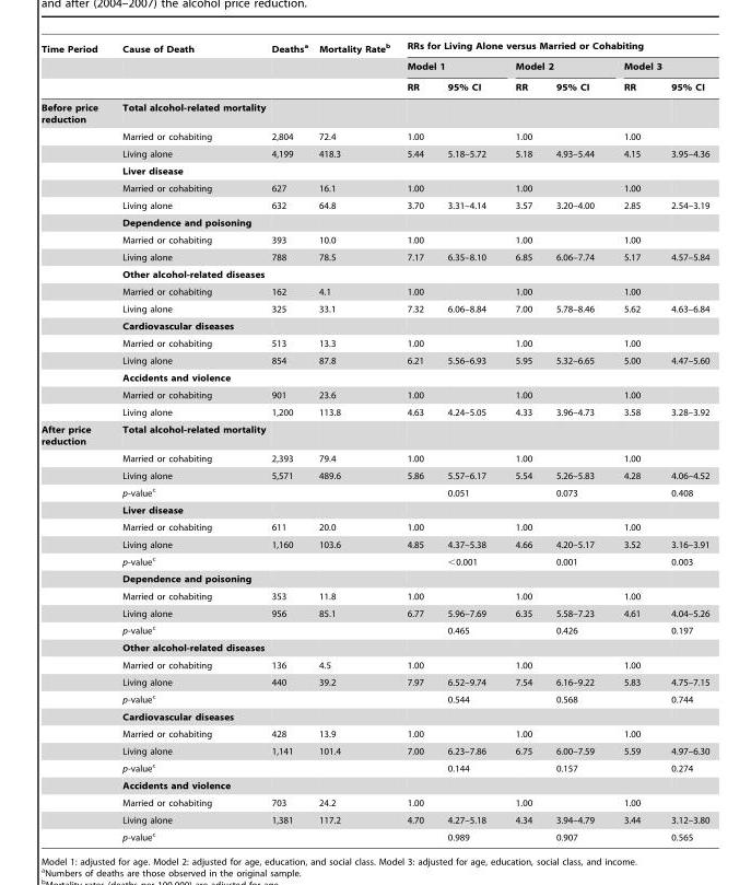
<table><thead><tr><td rowspan="3">Time Period</td><td rowspan="3">Cause of Death</td><td rowspan="3">Deaths<sup>a</sup></td><td rowspan="3">Mortality Rate<sup>b</sup></td><td colspan="6">RRs for Living Alone versus Married or Cohabiting</td></tr><tr><td colspan="2">Model 1</td><td colspan="2">Model 2</td><td colspan="2">Model 3</td></tr><tr><td>RR</td><td>95% CI</td><td>RR</td><td>95% CI</td><td>RR</td><td>95% CI</td></tr></thead><tbody><tr><td rowspan="18">Before price reduction</td><td>Total alcohol-related mortality</td><td></td><td></td><td></td><td></td><td></td><td></td><td></td><td></td></tr><tr><td>Married or cohabiting</td><td>2,804</td><td>72.4</td><td>1.00</td><td></td><td>1.00</td><td></td><td>1.00</td><td></td></tr><tr><td>Living alone</td><td>4,199</td><td>418.3</td><td>5.44</td><td>5.18–5.72</td><td>5.18</td><td>4.93–5.44</td><td>4.15</td><td>3.95–4.36</td></tr><tr><td>Liver disease</td><td></td><td></td><td></td><td></td><td></td><td></td><td></td><td></td></tr><tr><td>Married or cohabiting</td><td>627</td><td>16.1</td><td>1.00</td><td></td><td>1.00</td><td></td><td>1.00</td><td></td></tr><tr><td>Living alone</td><td>632</td><td>64.8</td><td>3.70</td><td>3.31–4.14</td><td>3.57</td><td>3.20–4.00</td><td>2.85</td><td>2.54–3.19</td></tr><tr><td>Dependence and poisoning</td><td></td><td></td><td></td><td></td><td></td><td></td><td></td><td></td></tr><tr><td>Married or cohabiting</td><td>393</td><td>10.0</td><td>1.00</td><td></td><td>1.00</td><td></td><td>1.00</td><td></td></tr><tr><td>Living alone</td><td>788</td><td>78.5</td><td>7.17</td><td>6.35–8.10</td><td>6.85</td><td>6.06–7.74</td><td>5.17</td><td>4.57–5.84</td></tr><tr><td>Other alcohol-related diseases</td><td></td><td></td><td></td><td></td><td></td><td></td><td></td><td></td></tr><tr><td>Married or cohabiting</td><td>162</td><td>4.1</td><td>1.00</td><td></td><td>1.00</td><td></td><td>1.00</td><td></td></tr><tr><td>Living alone</td><td>325</td><td>33.1</td><td>7.32</td><td>6.06–8.84</td><td>7.00</td><td>5.78–8.46</td><td>5.62</td><td>4.63–6.84</td></tr><tr><td>Cardiovascular diseases</td><td></td><td></td><td></td><td></td><td></td><td></td><td></td><td></td></tr><tr><td>Married or cohabiting</td><td>513</td><td>13.3</td><td>1.00</td><td></td><td>1.00</td><td></td><td>1.00</td><td></td></tr><tr><td>Living alone</td><td>854</td><td>87.8</td><td>6.21</td><td>5.56–6.93</td><td>5.95</td><td>5.32–6.65</td><td>5.00</td><td>4.47–5.60</td></tr><tr><td>Accidents and violence</td><td></td><td></td><td></td><td></td><td></td><td></td><td></td><td></td></tr><tr><td>Married or cohabiting</td><td>901</td><td>23.6</td><td>1.00</td><td></td><td>1.00</td><td></td><td>1.00</td><td></td></tr><tr><td>Living alone</td><td>1,200</td><td>113.8</td><td>4.63</td><td>4.24–5.05</td><td>4.33</td><td>3.96–4.73</td><td>3.58</td><td>3.28–3.92</td></tr><tr><td rowspan="24">After price reduction</td><td>Total alcohol-related mortality</td><td></td><td></td><td></td><td></td><td></td><td></td><td></td><td></td></tr><tr><td>Married or cohabiting</td><td>2,393</td><td>79.4</td><td>1.00</td><td></td><td>1.00</td><td></td><td>1.00</td><td></td></tr><tr><td>Living alone</td><td>5,571</td><td>489.6</td><td>5.86</td><td>5.57–6.17</td><td>5.54</td><td>5.26–5.83</td><td>4.28</td><td>4.06–4.52</td></tr><tr><td>p-value<sup>c</sup></td><td></td><td></td><td></td><td>0.051</td><td></td><td>0.073</td><td></td><td>0.408</td></tr><tr><td>Liver disease</td><td></td><td></td><td></td><td></td><td></td><td></td><td></td><td></td></tr><tr><td>Married or cohabiting</td><td>611</td><td>20.0</td><td>1.00</td><td></td><td>1.00</td><td></td><td>1.00</td><td></td></tr><tr><td>Living alone</td><td>1,160</td><td>103.6</td><td>4.85</td><td>4.37–5.38</td><td>4.66</td><td>4.20–5.17</td><td>3.52</td><td>3.16–3.91</td></tr><tr><td>p-value<sup>c</sup></td><td></td><td></td><td></td><td>&lt;0.001</td><td></td><td>0.001</td><td></td><td>0.003</td></tr><tr><td>Dependence and poisoning</td><td></td><td></td><td></td><td></td><td></td><td></td><td></td><td></td></tr><tr><td>Married or cohabiting</td><td>353</td><td>11.8</td><td>1.00</td><td></td><td>1.00</td><td></td><td>1.00</td><td></td></tr><tr><td>Living alone</td><td>956</td><td>85.1</td><td>6.77</td><td>5.96–7.69</td><td>6.35</td><td>5.58–7.23</td><td>4.61</td><td>4.04–5.26</td></tr><tr><td>p-value<sup>c</sup></td><td></td><td></td><td></td><td>0.465</td><td></td><td>0.426</td><td></td><td>0.197</td></tr><tr><td>Other alcohol-related diseases</td><td></td><td></td><td></td><td></td><td></td><td></td><td></td><td></td></tr><tr><td>Married or cohabiting</td><td>136</td><td>4.5</td><td>1.00</td><td></td><td>1.00</td><td></td><td>1.00</td><td></td></tr><tr><td>Living alone</td><td>440</td><td>39.2</td><td>7.97</td><td>6.52–9.74</td><td>7.54</td><td>6.16–9.22</td><td>5.83</td><td>4.75–7.15</td></tr><tr><td>p-value<sup>c</sup></td><td></td><td></td><td></td><td>0.544</td><td></td><td>0.568</td><td></td><td>0.744</td></tr><tr><td>Cardiovascular diseases</td><td></td><td></td><td></td><td></td><td></td><td></td><td></td><td></td></tr><tr><td>Married or cohabiting</td><td>428</td><td>13.9</td><td>1.00</td><td></td><td>1.00</td><td></td><td>1.00</td><td></td></tr><tr><td>Living alone</td><td>1,141</td><td>101.4</td><td>7.00</td><td>6.23–7.86</td><td>6.75</td><td>6.00–7.59</td><td>5.59</td><td>4.97–6.30</td></tr><tr><td>p-value<sup>c</sup></td><td></td><td></td><td></td><td>0.144</td><td></td><td>0.157</td><td></td><td>0.274</td></tr><tr><td>Accidents and violence</td><td></td><td></td><td></td><td></td><td></td><td></td><td></td><td></td></tr><tr><td>Married or cohabiting</td><td>703</td><td>24.2</td><td>1.00</td><td></td><td>1.00</td><td></td><td>1.00</td><td></td></tr><tr><td>Living alone</td><td>1,381</td><td>117.2</td><td>4.70</td><td>4.27–5.18</td><td>4.34</td><td>3.94–4.79</td><td>3.44</td><td>3.12–3.80</td></tr><tr><td>p-value<sup>c</sup></td><td></td><td></td><td></td><td>0.989</td><td></td><td>0.907</td><td></td><td>0.565</td></tr></tbody></table>